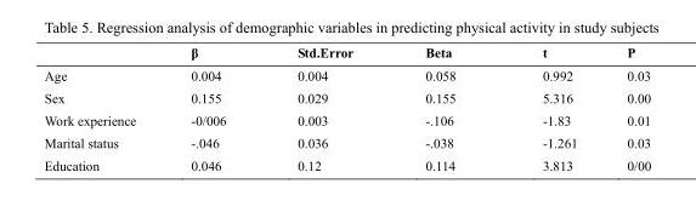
<table><thead><tr><td></td><td>β</td><td>Std.Error</td><td>Beta</td><td>t</td><td>P</td></tr></thead><tbody><tr><td>Age</td><td>0.004</td><td>0.004</td><td>0.058</td><td>0.992</td><td>0.03</td></tr><tr><td>Sex</td><td>0.155</td><td>0.029</td><td>0.155</td><td>5.316</td><td>0.00</td></tr><tr><td>Work experience</td><td>-0/006</td><td>0.003</td><td>-.106</td><td>-1.83</td><td>0.01</td></tr><tr><td>Marital status</td><td>-.046</td><td>0.036</td><td>-.038</td><td>-1.261</td><td>0.03</td></tr><tr><td>Education</td><td>0.046</td><td>0.12</td><td>0.114</td><td>3.813</td><td>0/00</td></tr></tbody></table>